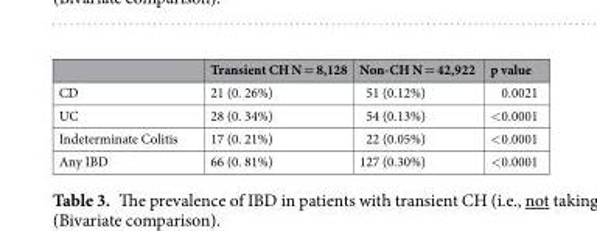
<table><thead><tr><td></td><td>Transient CH N = 8,128</td><td>Non-CH N = 42,922</td><td>p value</td></tr></thead><tbody><tr><td>CD</td><td>21 (0. 26%)</td><td>51 (0.12%)</td><td>0.0021</td></tr><tr><td>UC</td><td>28 (0. 34%)</td><td>54 (0.13%)</td><td>&lt;0.0001</td></tr><tr><td>Indeterminate Colitis</td><td>17 (0. 21%)</td><td>22 (0.05%)</td><td>&lt;0.0001</td></tr><tr><td>Any IBD</td><td>66 (0. 81%)</td><td>127 (0.30%)</td><td>&lt;0.0001</td></tr></tbody></table>